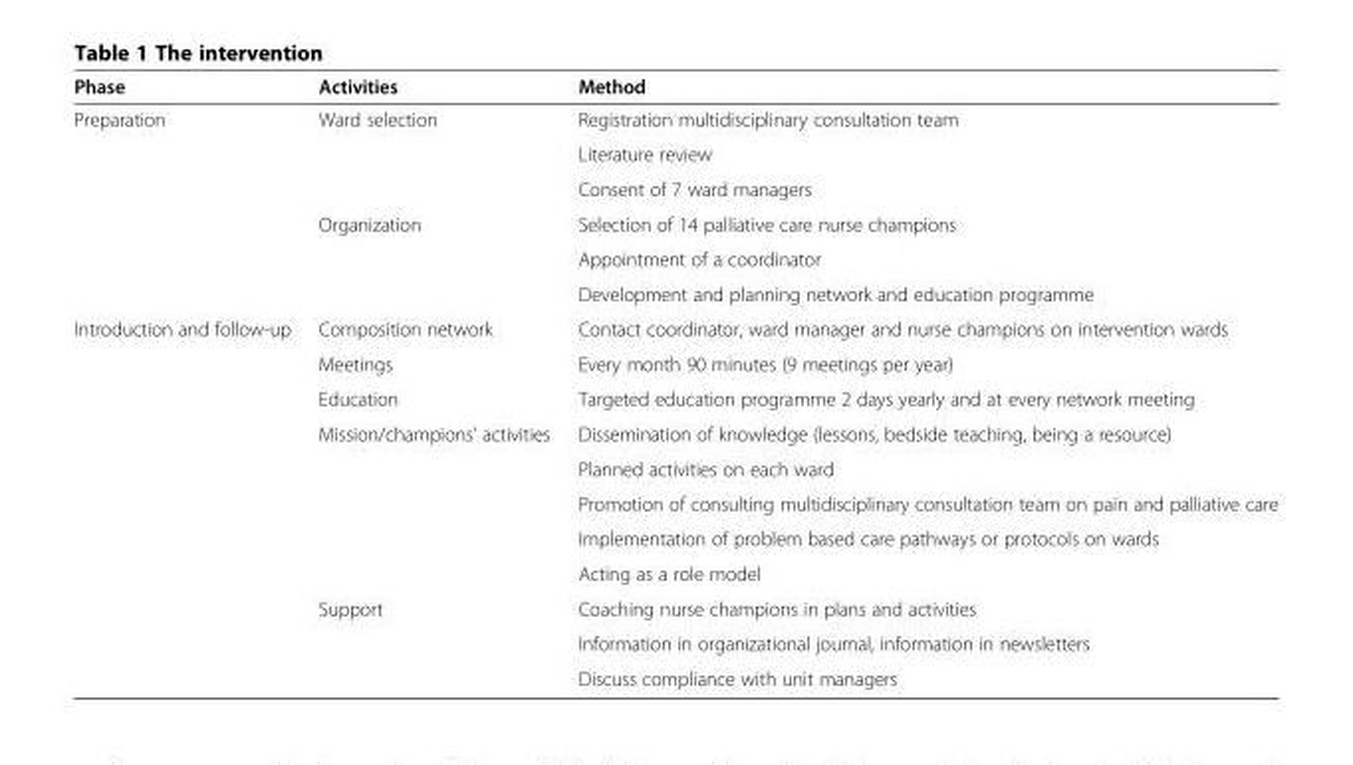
<table><thead><tr><td>Phase</td><td>Activities</td><td>Method</td></tr></thead><tbody><tr><td rowspan="6">Preparation</td><td>Ward selection</td><td>Registration multidisciplinary consultation team</td></tr><tr><td></td><td>Literature review</td></tr><tr><td></td><td>Consent of 7 ward managers</td></tr><tr><td>Organization</td><td>Selection of 14 palliative care nurse champions</td></tr><tr><td></td><td>Appointment of a coordinator</td></tr><tr><td></td><td>Development and planning network and education programme</td></tr><tr><td rowspan="11">Introduction and follow-up</td><td>Composition network</td><td>Contact coordinator, ward manager and nurse champions on intervention wards</td></tr><tr><td>Meetings</td><td>Every month 90 minutes (9 meetings per year)</td></tr><tr><td>Education</td><td>Targeted education programme 2 days yearly and at every network meeting</td></tr><tr><td>Mission/champions’ activities</td><td>Dissemination of knowledge (lessons, bedside teaching, being a resource)</td></tr><tr><td></td><td>Planned activities on each ward</td></tr><tr><td></td><td>Promotion of consulting multidisciplinary consultation team on pain and palliative care</td></tr><tr><td></td><td>Implementation of problem based care pathways or protocols on wards</td></tr><tr><td></td><td>Acting as a role model</td></tr><tr><td>Support</td><td>Coaching nurse champions in plans and activities</td></tr><tr><td></td><td>Information in organizational journal, information in newsletters</td></tr><tr><td></td><td>Discuss compliance with unit managers</td></tr></tbody></table>